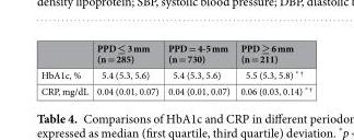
<table><thead><tr><td></td><td>PPD ≤ 3 mm (n = 285)</td><td>PPD = 4-5 mm (n = 730)</td><td>PPD ≥ 6 mm (n = 211)</td></tr></thead><tbody><tr><td>HbA1c, %</td><td>5.4 (5.3, 5.6)</td><td>5.4 (5.3, 5.6)</td><td>5.5 (5.3, 5.8) <sup>* †</sup></td></tr><tr><td>CRP, mg/dL</td><td>0.04 (0.01, 0.07)</td><td>0.04 (0.01, 0.07)</td><td>0.06 (0.03, 0.14) <sup>* †</sup></td></tr></tbody></table>